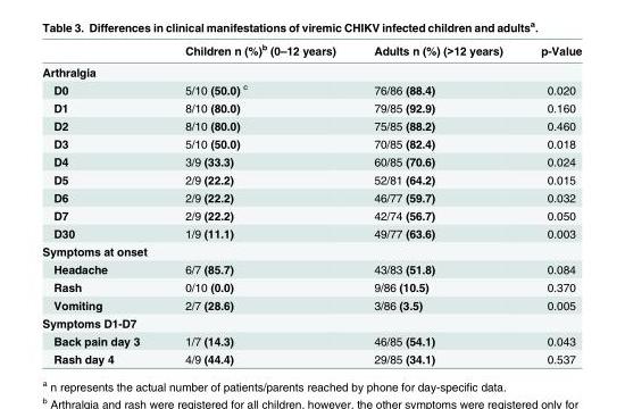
<table><thead><tr><td></td><td>Children n (%)<sup>b</sup> (0–12 years)</td><td>Adults n (%) (&gt;12 years)</td><td>p-Value</td></tr></thead><tbody><tr><td colspan="4">Arthralgia</td></tr><tr><td>D0</td><td>5/10 (50.0) <sup>c</sup></td><td>76/86 (88.4)</td><td>0.020</td></tr><tr><td>D1</td><td>8/10 (80.0)</td><td>79/85 (92.9)</td><td>0.160</td></tr><tr><td>D2</td><td>8/10 (80.0)</td><td>75/85 (88.2)</td><td>0.460</td></tr><tr><td>D3</td><td>5/10 (50.0)</td><td>70/85 (82.4)</td><td>0.018</td></tr><tr><td>D4</td><td>3/9 (33.3)</td><td>60/85 (70.6)</td><td>0.024</td></tr><tr><td>D5</td><td>2/9 (22.2)</td><td>52/81 (64.2)</td><td>0.015</td></tr><tr><td>D6</td><td>2/9 (22.2)</td><td>46/77 (59.7)</td><td>0.032</td></tr><tr><td>D7</td><td>2/9 (22.2)</td><td>42/74 (56.7)</td><td>0.050</td></tr><tr><td>D30</td><td>1/9 (11.1)</td><td>49/77 (63.6)</td><td>0.003</td></tr><tr><td colspan="4">Symptoms at onset</td></tr><tr><td>Headache</td><td>6/7 (85.7)</td><td>43/83 (51.8)</td><td>0.084</td></tr><tr><td>Rash</td><td>0/10 (0.0)</td><td>9/86 (10.5)</td><td>0.370</td></tr><tr><td>Vomiting</td><td>2/7 (28.6)</td><td>3/86 (3.5)</td><td>0.005</td></tr><tr><td colspan="4">Symptoms D1-D7</td></tr><tr><td>Back pain day 3</td><td>1/7 (14.3)</td><td>46/85 (54.1)</td><td>0.043</td></tr><tr><td>Rash day 4</td><td>4/9 (44.4)</td><td>29/85 (34.1)</td><td>0.537</td></tr></tbody></table>